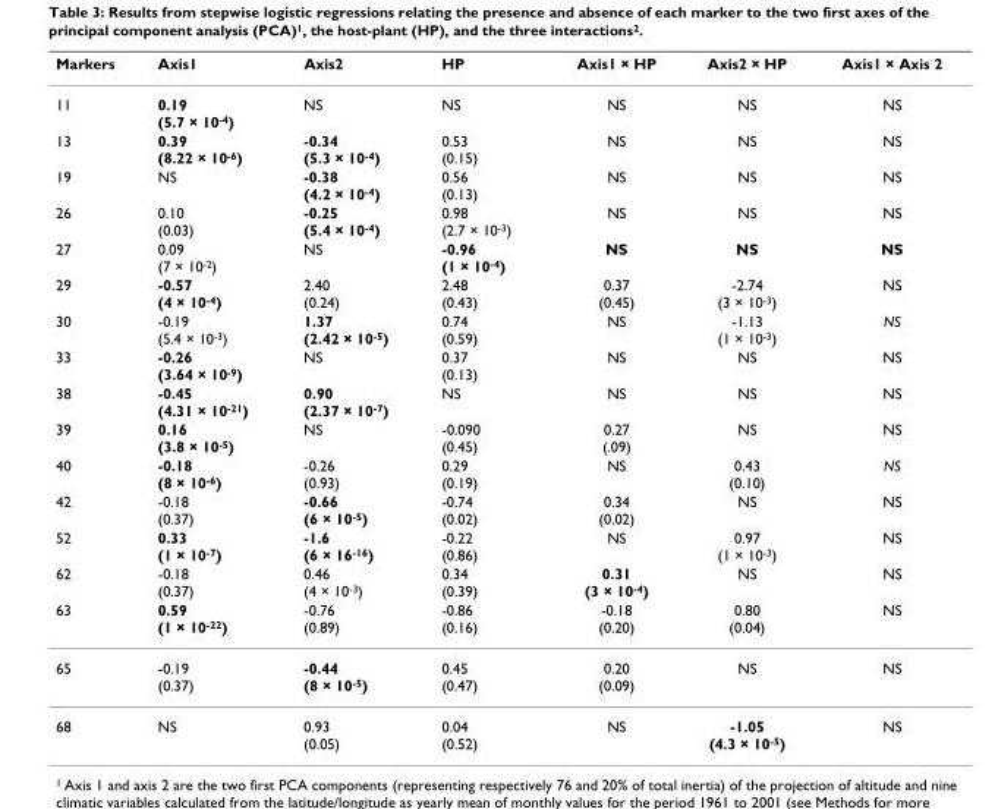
<table><thead><tr><td>Markers</td><td>Axis1</td><td>Axis2</td><td>HP</td><td>Axis1 × HP</td><td>Axis2 × HP</td><td>Axis1 × Axis 2</td></tr></thead><tbody><tr><td>11</td><td>0.19 (5.7 × 10<sup>-4</sup>)</td><td>NS</td><td>NS</td><td>NS</td><td>NS</td><td>NS</td></tr><tr><td>13</td><td>0.39 (8.22 × 10<sup>-6</sup>)</td><td>-0.34 (5.3 × 10<sup>-4</sup>)</td><td>0.53 (0.15)</td><td>NS</td><td>NS</td><td>NS</td></tr><tr><td>19</td><td>NS</td><td>-0.38 (4.2 × 10<sup>-4</sup>)</td><td>0.56 (0.13)</td><td>NS</td><td>NS</td><td>NS</td></tr><tr><td>26</td><td>0.10 (0.03)</td><td>-0.25 (5.4 × 10<sup>-4</sup>)</td><td>0.98 (2.7 × 10<sup>-3</sup>)</td><td>NS</td><td>NS</td><td>NS</td></tr><tr><td>27</td><td>0.09 (7 × 10<sup>-2</sup>)</td><td>NS</td><td>-0.96 (1 × 10<sup>-4</sup>)</td><td>NS</td><td>NS</td><td>NS</td></tr><tr><td>29</td><td>-0.57 (4 × 10<sup>-4</sup>)</td><td>2.40 (0.24)</td><td>2.48 (0.43)</td><td>0.37 (0.45)</td><td>-2.74 (3 × 10<sup>-3</sup>)</td><td>NS</td></tr><tr><td>30</td><td>-0.19 (5.4 × 10<sup>-3</sup>)</td><td>1.37 (2.42 × 10<sup>-5</sup>)</td><td>0.74 (0.59)</td><td>NS</td><td>-1.13 (1 × 10<sup>-3</sup>)</td><td>NS</td></tr><tr><td>33</td><td>-0.26 (3.64 × 10<sup>-9</sup>)</td><td>NS</td><td>0.37 (0.13)</td><td>NS</td><td>NS</td><td>NS</td></tr><tr><td>38</td><td>-0.45 (4.31 × 10<sup>-21</sup>)</td><td>0.90 (2.37 × 10<sup>-7</sup>)</td><td>NS</td><td>NS</td><td>NS</td><td>NS</td></tr><tr><td>39</td><td>0.16 (3.8 × 10<sup>-5</sup>)</td><td>NS</td><td>-0.090 (0.45)</td><td>0.27 (.09)</td><td>NS</td><td>NS</td></tr><tr><td>40</td><td>-0.18 (8 × 10<sup>-6</sup>)</td><td>-0.26 (0.93)</td><td>0.29 (0.19)</td><td>NS</td><td>0.43 (0.10)</td><td>NS</td></tr><tr><td>42</td><td>-0.18 (0.37)</td><td>-0.66 (6 × 10<sup>-5</sup>)</td><td>-0.74 (0.02)</td><td>0.34 (0.02)</td><td>NS</td><td>NS</td></tr><tr><td>52</td><td>0.33 (1 × 10<sup>-7</sup>)</td><td>-1.6 (6 × 16<sup>-16</sup>)</td><td>-0.22 (0.86)</td><td>NS</td><td>0.97 (1 × 10<sup>-3</sup>)</td><td>NS</td></tr><tr><td>62</td><td>-0.18 (0.37)</td><td>0.46 (4 × 10<sup>-3</sup>)</td><td>0.34 (0.39)</td><td>0.31 (3 × 10<sup>-4</sup>)</td><td>NS</td><td>NS</td></tr><tr><td>63</td><td>0.59 (1 × 10<sup>-22</sup>)</td><td>-0.76 (0.89)</td><td>-0.86 (0.16)</td><td>-0.18 (0.20)</td><td>0.80 (0.04)</td><td>NS</td></tr><tr><td>65</td><td>-0.19 (0.37)</td><td>-0.44 (8 × 10<sup>-5</sup>)</td><td>0.45 (0.47)</td><td>0.20 (0.09)</td><td>NS</td><td>NS</td></tr><tr><td>68</td><td>NS</td><td>0.93 (0.05)</td><td>0.04 (0.52)</td><td>NS</td><td>-1.05 (4.3 × 10<sup>-5</sup>)</td><td>NS</td></tr></tbody></table>